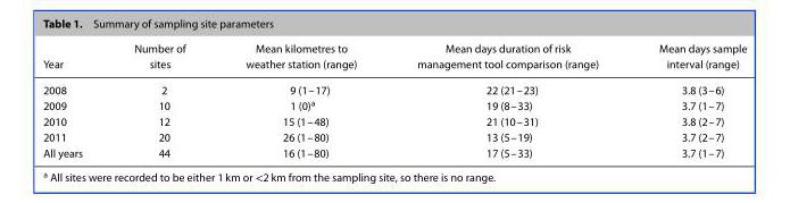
<table><thead><tr><td>Year</td><td>Number of sites</td><td>Mean kilometres to weather station (range)</td><td>Mean days duration of risk management tool comparison (range)</td><td>Mean days sample interval (range)</td></tr></thead><tbody><tr><td>2008</td><td>2</td><td>9 (1–17)</td><td>22 (21–23)</td><td>3.8 (3–6)</td></tr><tr><td>2009</td><td>10</td><td>1 (0)<sup>a</sup></td><td>19 (8–33)</td><td>3.7 (1–7)</td></tr><tr><td>2010</td><td>12</td><td>15 (1–48)</td><td>21 (10–31)</td><td>3.8 (2–7)</td></tr><tr><td>2011</td><td>20</td><td>26 (1–80)</td><td>13 (5–19)</td><td>3.7 (2–7)</td></tr><tr><td>All years</td><td>44</td><td>16 (1–80)</td><td>17 (5–33)</td><td>3.7 (1–7)</td></tr></tbody></table>